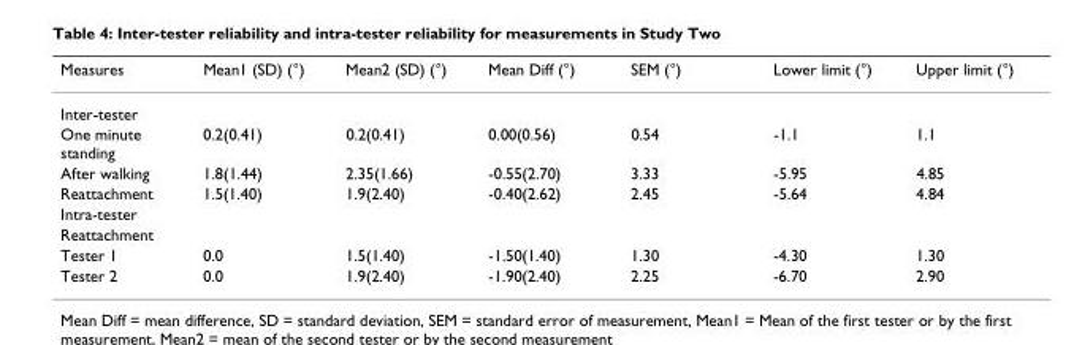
<table><thead><tr><td>Measures</td><td>Mean1 (SD) (°)</td><td>Mean2 (SD) (°)</td><td>Mean Diff (°)</td><td>SEM (°)</td><td>Lower limit (°)</td><td>Upper limit (°)</td></tr></thead><tbody><tr><td colspan="7">Inter-tester</td></tr><tr><td>One minute standing</td><td>0.2(0.41)</td><td>0.2(0.41)</td><td>0.00(0.56)</td><td>0.54</td><td>-1.1</td><td>1.1</td></tr><tr><td>After walking</td><td>1.8(1.44)</td><td>2.35(1.66)</td><td>-0.55(2.70)</td><td>3.33</td><td>-5.95</td><td>4.85</td></tr><tr><td>Reattachment</td><td>1.5(1.40)</td><td>1.9(2.40)</td><td>-0.40(2.62)</td><td>2.45</td><td>-5.64</td><td>4.84</td></tr><tr><td colspan="7">Intra-tester</td></tr><tr><td colspan="7">Reattachment</td></tr><tr><td>Tester 1</td><td>0.0</td><td>1.5(1.40)</td><td>-1.50(1.40)</td><td>1.30</td><td>-4.30</td><td>1.30</td></tr><tr><td>Tester 2</td><td>0.0</td><td>1.9(2.40)</td><td>-1.90(2.40)</td><td>2.25</td><td>-6.70</td><td>2.90</td></tr></tbody></table>